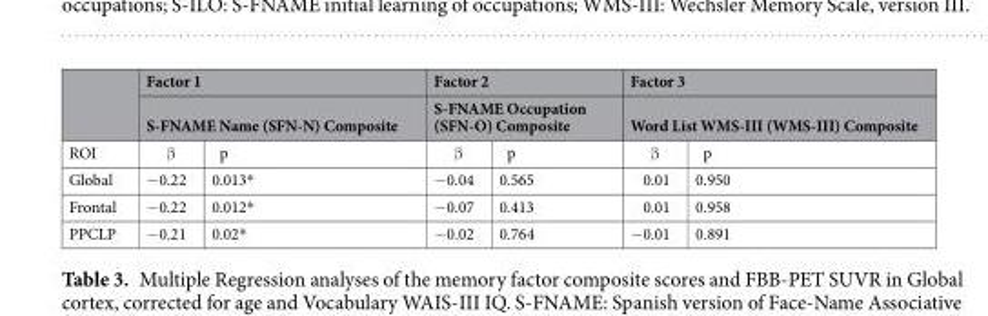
<table><thead><tr><td rowspan="3">ROI</td><td rowspan="2" colspan="2">Factor 1 S-FNAME Name (SFN-N) Composite</td><td rowspan="2" colspan="2">Factor 2 S-FNAME Occupation (SFN-O) Composite</td><td rowspan="2" colspan="2">Factor 3 Word List WMS-III (WMS-III) Composite</td></tr><tr></tr><tr><td>β</td><td>p</td><td>β</td><td>p</td><td>β</td><td>p</td></tr></thead><tbody><tr><td>Global</td><td>−0.22</td><td>0.013*</td><td>−0.04</td><td>0.565</td><td>0.01</td><td>0.950</td></tr><tr><td>Frontal</td><td>−0.22</td><td>0.012*</td><td>−0.07</td><td>0.413</td><td>0.01</td><td>0.958</td></tr><tr><td>PPCLP</td><td>−0.21</td><td>0.02*</td><td>−0.02</td><td>0.764</td><td>−0.01</td><td>0.891</td></tr></tbody></table>